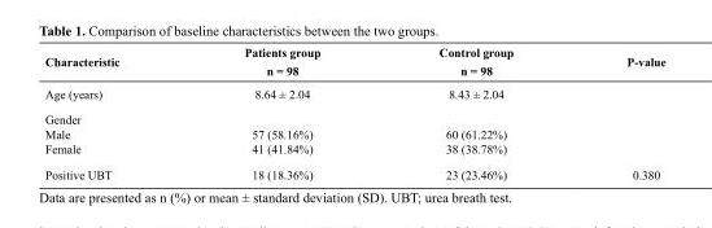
<table><thead><tr><td>characteristic</td><td>Patients group n = 98</td><td>control group n = 98</td><td>P-value</td></tr></thead><tbody><tr><td>Age (years)</td><td>8.64 ± 2.04</td><td>8.43 ± 2.04</td><td></td></tr><tr><td colspan="4">Gender</td></tr><tr><td>Male</td><td>57 (58.16%)</td><td>60 (61.22%)</td><td></td></tr><tr><td>Female</td><td>41 (41.84%)</td><td>38 (38.78%)</td><td></td></tr><tr><td>Positive UBT</td><td>18 (18.36%)</td><td>23 (23.46%)</td><td>0.380</td></tr></tbody></table>